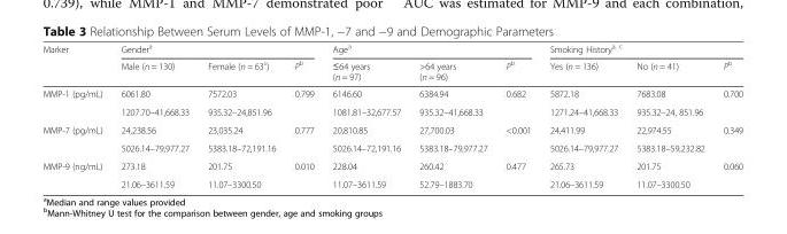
<table><thead><tr><td rowspan="2">Marker</td><td colspan="3">Gender<sup>a</sup></td><td colspan="3">Age<sup>a</sup></td><td colspan="3">Smoking History<sup>a, c</sup></td></tr><tr><td>Male (n = 130)</td><td>Female (n = 63<sup>c</sup>)</td><td>P<sup>b</sup></td><td>≤64 years (n = 97)</td><td>&gt;64 years (n = 96)</td><td>P<sup>b</sup></td><td>Yes (n = 136)</td><td>No (n = 41)</td><td>P<sup>b</sup></td></tr></thead><tbody><tr><td rowspan="2">MMP-1 (pg/mL)</td><td>6061.80</td><td>7572.03</td><td>0.799</td><td>6146.60</td><td>6384.94</td><td>0.682</td><td>5872.18</td><td>7683.08</td><td>0.700</td></tr><tr><td>1207.70–41,668.33</td><td>935.32–24,851.96</td><td></td><td>1081.81–32,677.57</td><td>935.32–41,668.33</td><td></td><td>1271.24–41,668.33</td><td>935.32–24, 851.96</td><td></td></tr><tr><td rowspan="2">MMP-7 (pg/mL)</td><td>24,238.56</td><td>23,035.24</td><td>0.777</td><td>20,810.85</td><td>27,700.03</td><td>&lt;0.001</td><td>24,411.99</td><td>22,974.55</td><td>0.349</td></tr><tr><td>5026.14–79,977.27</td><td>5383.18–72,191.16</td><td></td><td>5026.14–72,191.16</td><td>5383.18–79,977.27</td><td></td><td>5026.14–79,977.27</td><td>5383.18–59,232.82</td><td></td></tr><tr><td rowspan="2">MMP-9 (ng/mL)</td><td>273.18</td><td>201.75</td><td>0.010</td><td>228.04</td><td>260.42</td><td>0.477</td><td>265.73</td><td>201.75</td><td>0.060</td></tr><tr><td>21.06–3611.59</td><td>11.07–3300.50</td><td></td><td>11.07–3611.59</td><td>52.79–1883.70</td><td></td><td>21.06–3611.59</td><td>11.07–3300.50</td><td></td></tr></tbody></table>